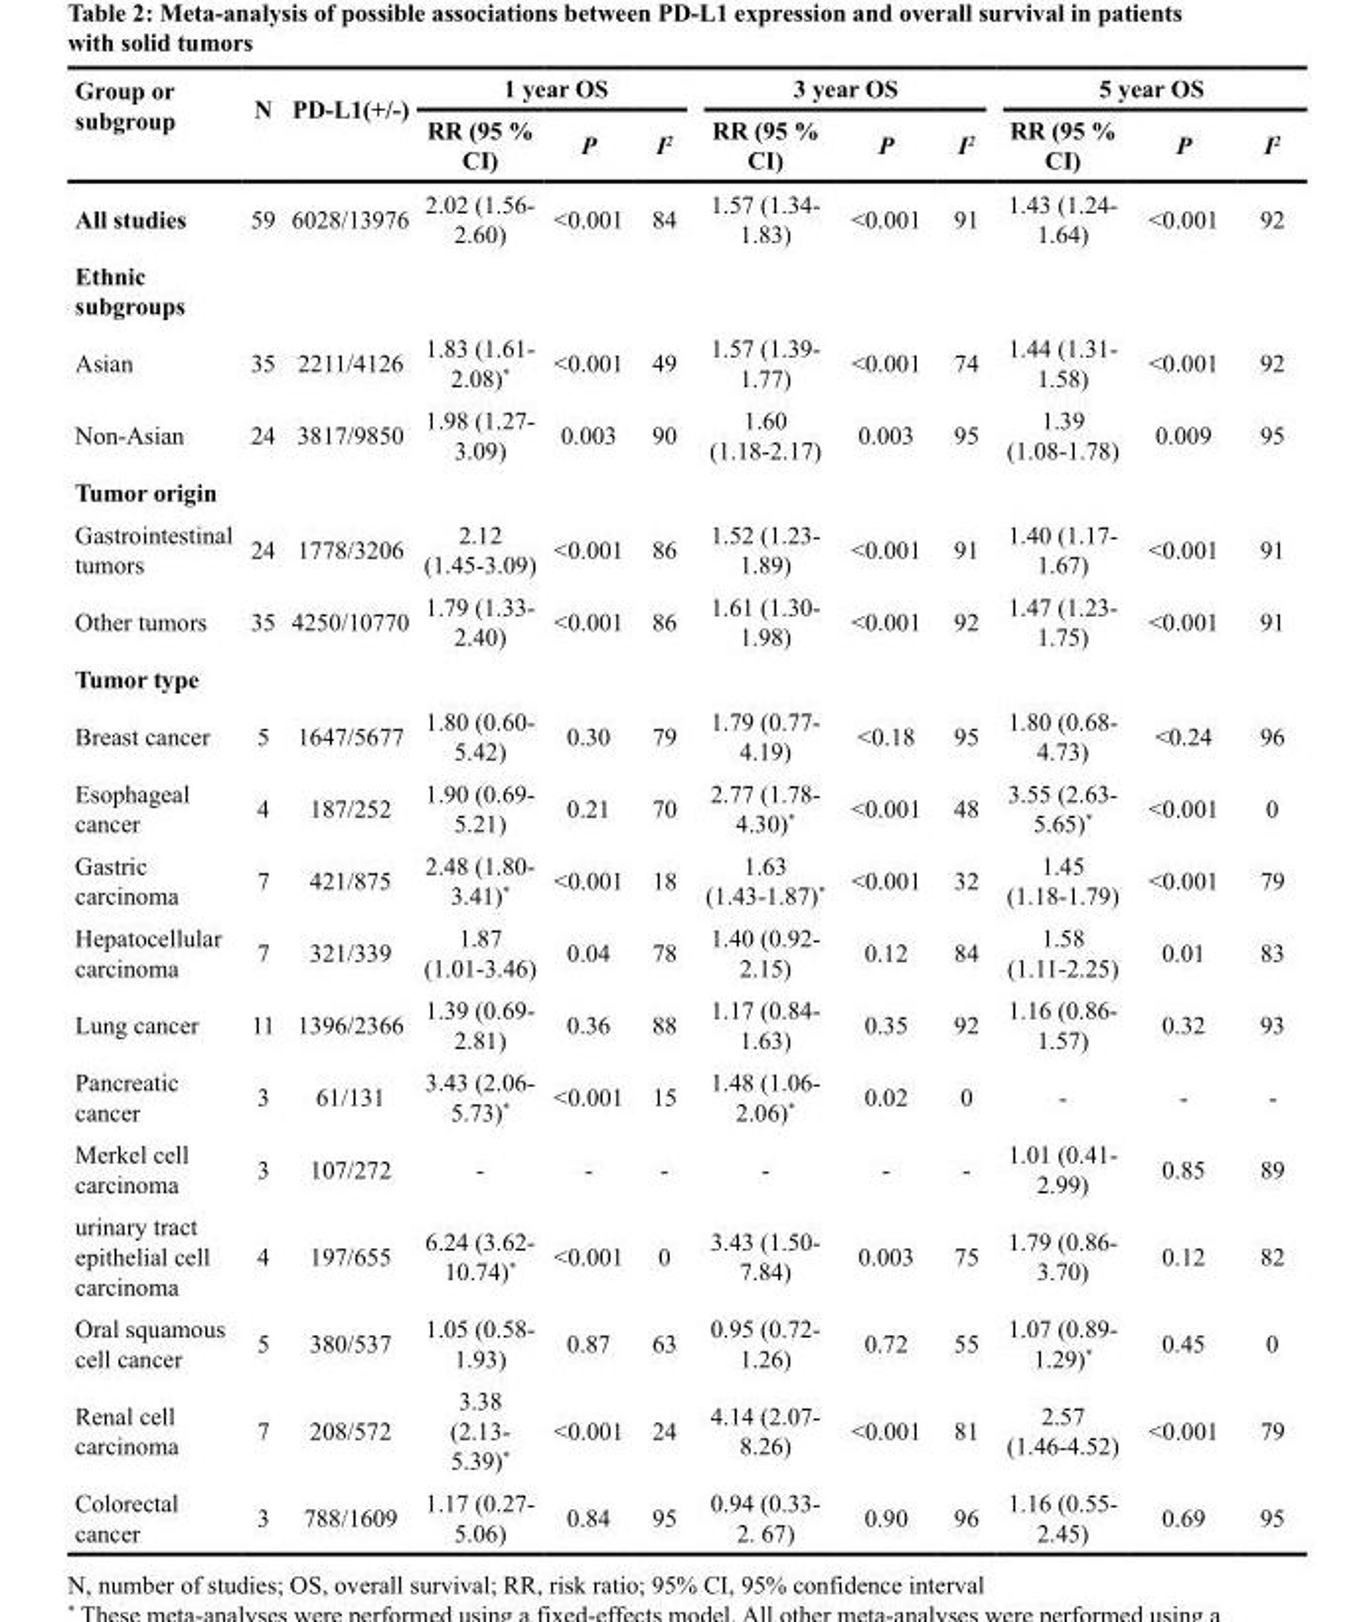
<table><thead><tr><td rowspan="2">Group or subgroup</td><td rowspan="2">N</td><td rowspan="2">PD-L1(+/-)</td><td colspan="3">1 year OS</td><td colspan="3">3 year OS</td><td colspan="3">5 year OS</td></tr><tr><td>RR (95 % CI)</td><td>P</td><td>I<sup>2</sup></td><td>RR (95 % CI)</td><td>P</td><td>I<sup>2</sup></td><td>RR (95 % CI)</td><td>P</td><td>I<sup>2</sup></td></tr></thead><tbody><tr><td>All studies</td><td>59</td><td>6028/13976</td><td>2.02 (1.56- 2.60)</td><td>&lt;0.001</td><td>84</td><td>1.57 (1.34- 1.83)</td><td>&lt;0.001</td><td>91</td><td>1.43 (1.24- 1.64)</td><td>&lt;0.001</td><td>92</td></tr><tr><td colspan="12">Ethnic subgroups</td></tr><tr><td>Asian</td><td>35</td><td>2211/4126</td><td>1.83 (1.61- 2.08)*</td><td>&lt;0.001</td><td>49</td><td>1.57 (1.39- 1.77)</td><td>&lt;0.001</td><td>74</td><td>1.44 (1.31- 1.58)</td><td>&lt;0.001</td><td>92</td></tr><tr><td>Non-Asian</td><td>24</td><td>3817/9850</td><td>1.98 (1.27- 3.09)</td><td>0.003</td><td>90</td><td>1.60 (1.18-2.17)</td><td>0.003</td><td>95</td><td>1.39 (1.08-1.78)</td><td>0.009</td><td>95</td></tr><tr><td colspan="12">Tumor origin</td></tr><tr><td>Gastrointestinal tumors</td><td>24</td><td>1778/3206</td><td>2.12 (1.45-3.09)</td><td>&lt;0.001</td><td>86</td><td>1.52 (1.23- 1.89)</td><td>&lt;0.001</td><td>91</td><td>1.40 (1.17- 1.67)</td><td>&lt;0.001</td><td>91</td></tr><tr><td>Other tumors</td><td>35</td><td>4250/10770</td><td>1.79 (1.33- 2.40)</td><td>&lt;0.001</td><td>86</td><td>1.61 (1.30- 1.98)</td><td>&lt;0.001</td><td>92</td><td>1.47 (1.23- 1.75)</td><td>&lt;0.001</td><td>91</td></tr><tr><td colspan="12">Tumor type</td></tr><tr><td>Breast cancer</td><td>5</td><td>1647/5677</td><td>1.80 (0.60- 5.42)</td><td>0.30</td><td>79</td><td>1.79 (0.77- 4.19)</td><td>&lt;0.18</td><td>95</td><td>1.80 (0.68- 4.73)</td><td>&lt;0.24</td><td>96</td></tr><tr><td>Esophageal cancer</td><td>4</td><td>187/252</td><td>1.90 (0.69- 5.21)</td><td>0.21</td><td>70</td><td>2.77 (1.78- 4.30)*</td><td>&lt;0.001</td><td>48</td><td>3.55 (2.63- 5.65)*</td><td>&lt;0.001</td><td>0</td></tr><tr><td>Gastric carcinoma</td><td>7</td><td>421/875</td><td>2.48 (1.80- 3.41)*</td><td>&lt;0.001</td><td>18</td><td>1.63 (1.43-1.87)*</td><td>&lt;0.001</td><td>32</td><td>1.45 (1.18-1.79)</td><td>&lt;0.001</td><td>79</td></tr><tr><td>Hepatocellular carcinoma</td><td>7</td><td>321/339</td><td>1.87 (1.01-3.46)</td><td>0.04</td><td>78</td><td>1.40 (0.92- 2.15)</td><td>0.12</td><td>84</td><td>1.58 (1.11-2.25)</td><td>0.01</td><td>83</td></tr><tr><td>Lung cancer</td><td>11</td><td>1396/2366</td><td>1.39 (0.69- 2.81)</td><td>0.36</td><td>88</td><td>1.17 (0.84- 1.63)</td><td>0.35</td><td>92</td><td>1.16 (0.86- 1.57)</td><td>0.32</td><td>93</td></tr><tr><td>Pancreatic cancer</td><td>3</td><td>61/131</td><td>3.43 (2.06- 5.73)*</td><td>&lt;0.001</td><td>15</td><td>1.48 (1.06- 2.06)*</td><td>0.02</td><td>0</td><td>-</td><td>-</td><td>-</td></tr><tr><td>Merkel cell carcinoma</td><td>3</td><td>107/272</td><td>-</td><td>-</td><td>-</td><td>-</td><td>-</td><td>-</td><td>1.01 (0.41- 2.99)</td><td>0.85</td><td>89</td></tr><tr><td>urinary tract epithelial cell carcinoma</td><td>4</td><td>197/655</td><td>6.24 (3.62- 10.74)*</td><td>&lt;0.001</td><td>0</td><td>3.43 (1.50- 7.84)</td><td>0.003</td><td>75</td><td>1.79 (0.86- 3.70)</td><td>0.12</td><td>82</td></tr><tr><td>Oral squamous cell cancer</td><td>5</td><td>380/537</td><td>1.05 (0.58- 1.93)</td><td>0.87</td><td>63</td><td>0.95 (0.72- 1.26)</td><td>0.72</td><td>55</td><td>1.07 (0.89- 1.29)*</td><td>0.45</td><td>0</td></tr><tr><td>Renal cell carcinoma</td><td>7</td><td>208/572</td><td>3.38 (2.13- 5.39)*</td><td>&lt;0.001</td><td>24</td><td>4.14 (2.07- 8.26)</td><td>&lt;0.001</td><td>81</td><td>2.57 (1.46-4.52)</td><td>&lt;0.001</td><td>79</td></tr><tr><td>Colorectal cancer</td><td>3</td><td>788/1609</td><td>1.17 (0.27- 5.06)</td><td>0.84</td><td>95</td><td>0.94 (0.33- 2. 67)</td><td>0.90</td><td>96</td><td>1.16 (0.55- 2.45)</td><td>0.69</td><td>95</td></tr></tbody></table>